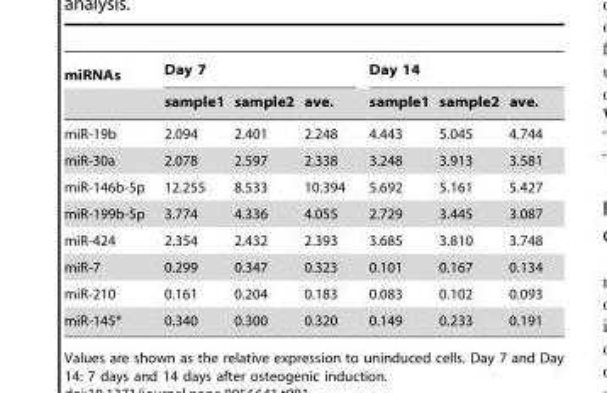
<table><thead><tr><td rowspan="2">miRNAs</td><td colspan="3">Day 7</td><td colspan="3">Day 14</td></tr><tr><td>sample1</td><td>sample2</td><td>ave.</td><td>sample1</td><td>sample2</td><td>ave.</td></tr></thead><tbody><tr><td>miR-19b</td><td>2.094</td><td>2.401</td><td>2.248</td><td>4.443</td><td>5.045</td><td>4.744</td></tr><tr><td>miR-30a</td><td>2.078</td><td>2.597</td><td>2.338</td><td>3.248</td><td>3.913</td><td>3.581</td></tr><tr><td>miR-146b-5p</td><td>12.255</td><td>8.533</td><td>10.394</td><td>5.692</td><td>5.161</td><td>5.427</td></tr><tr><td>miR-199b-5p</td><td>3.774</td><td>4.336</td><td>4.055</td><td>2.729</td><td>3.445</td><td>3.087</td></tr><tr><td>miR-424</td><td>2.354</td><td>2.432</td><td>2.393</td><td>3.685</td><td>3.810</td><td>3.748</td></tr><tr><td>miR-7</td><td>0.299</td><td>0.347</td><td>0.323</td><td>0.101</td><td>0.167</td><td>0.134</td></tr><tr><td>miR-210</td><td>0.161</td><td>0.204</td><td>0.183</td><td>0.083</td><td>0.102</td><td>0.093</td></tr><tr><td>miR-145*</td><td>0.340</td><td>0.300</td><td>0.320</td><td>0.149</td><td>0.233</td><td>0.191</td></tr></tbody></table>